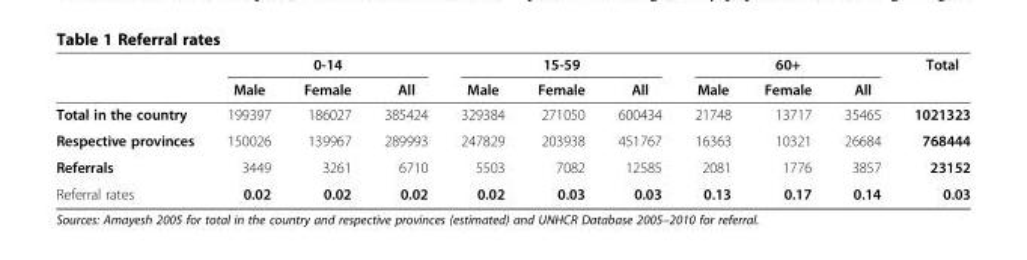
<table><thead><tr><td rowspan="2"></td><td colspan="3">0-14</td><td colspan="3">15-59</td><td colspan="3">60+</td><td rowspan="2">Total</td></tr><tr><td>Male</td><td>Female</td><td>All</td><td>Male</td><td>Female</td><td>All</td><td>Male</td><td>Female</td><td>All</td></tr></thead><tbody><tr><td>Total in the country</td><td>199397</td><td>186027</td><td>385424</td><td>329384</td><td>271050</td><td>600434</td><td>21748</td><td>13717</td><td>35465</td><td>1021323</td></tr><tr><td>Respective provinces</td><td>150026</td><td>139967</td><td>289993</td><td>247829</td><td>203938</td><td>451767</td><td>16363</td><td>10321</td><td>26684</td><td>768444</td></tr><tr><td>Referrals</td><td>3449</td><td>3261</td><td>6710</td><td>5503</td><td>7082</td><td>12585</td><td>2081</td><td>1776</td><td>3857</td><td>23152</td></tr><tr><td>Referral rates</td><td>0.02</td><td>0.02</td><td>0.02</td><td>0.02</td><td>0.03</td><td>0.03</td><td>0.13</td><td>0.17</td><td>0.14</td><td>0.03</td></tr></tbody></table>